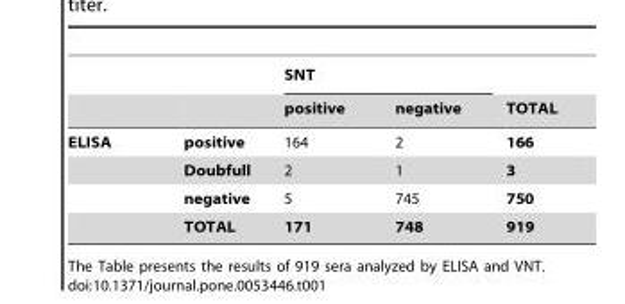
<table><thead><tr><td rowspan="2"></td><td rowspan="2"></td><td colspan="2">SNT</td><td rowspan="2">TOTAL</td></tr><tr><td>positive</td><td>negative</td></tr></thead><tbody><tr><td rowspan="4">ELISA</td><td>positive</td><td>164</td><td>2</td><td>166</td></tr><tr><td>Doubfull</td><td>2</td><td>1</td><td>3</td></tr><tr><td>negative</td><td>5</td><td>745</td><td>750</td></tr><tr><td>TOTAL</td><td>171</td><td>748</td><td>919</td></tr></tbody></table>